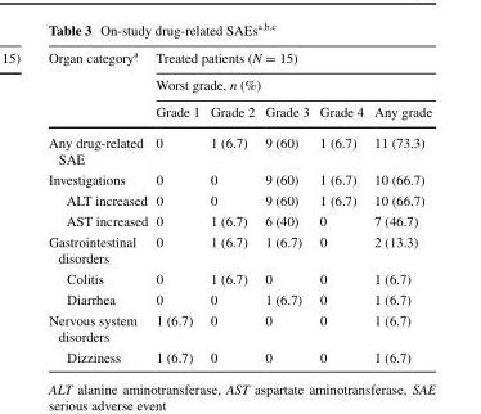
<table><thead><tr><td rowspan="3">Organ category<sup>a</sup></td><td rowspan="2" colspan="5">Treated patients (N = 15) Worst grade, n (%)</td></tr><tr></tr><tr><td>Grade 1</td><td>Grade 2</td><td>Grade 3</td><td>Grade 4</td><td>Any grade</td></tr></thead><tbody><tr><td>Any drug-related SAE</td><td>0</td><td>1 (6.7)</td><td>9 (60)</td><td>1 (6.7)</td><td>11 (73.3)</td></tr><tr><td>Investigations</td><td>0</td><td>0</td><td>9 (60)</td><td>1 (6.7)</td><td>10 (66.7)</td></tr><tr><td>ALT increased</td><td>0</td><td>0</td><td>9 (60)</td><td>1 (6.7)</td><td>10 (66.7)</td></tr><tr><td>AST increased</td><td>0</td><td>1 (6.7)</td><td>6 (40)</td><td>0</td><td>7 (46.7)</td></tr><tr><td>Gastrointestinal disorders</td><td>0</td><td>1 (6.7)</td><td>1 (6.7)</td><td>0</td><td>2 (13.3)</td></tr><tr><td>Colitis</td><td>0</td><td>1 (6.7)</td><td>0</td><td>0</td><td>1 (6.7)</td></tr><tr><td>Diarrhea</td><td>0</td><td>0</td><td>1 (6.7)</td><td>0</td><td>1 (6.7)</td></tr><tr><td>Nervous system disorders</td><td>1 (6.7)</td><td>0</td><td>0</td><td>0</td><td>1 (6.7)</td></tr><tr><td>Dizziness</td><td>1 (6.7)</td><td>0</td><td>0</td><td>0</td><td>1 (6.7)</td></tr></tbody></table>